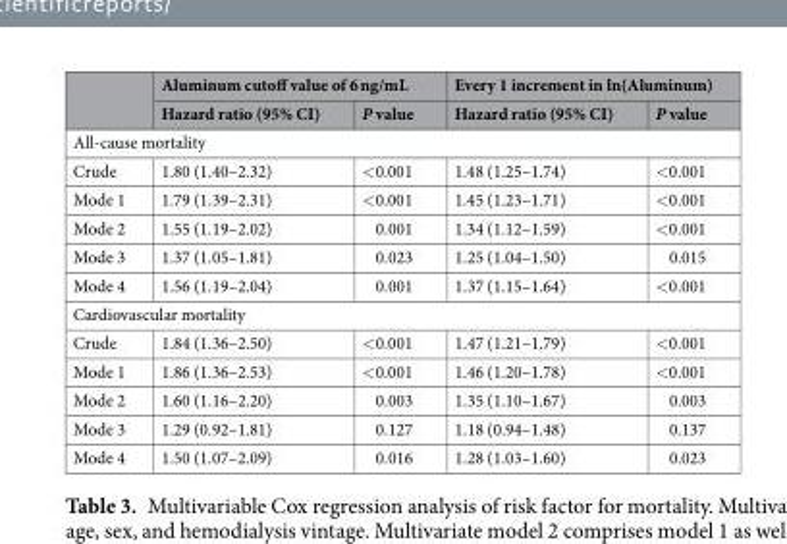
<table><thead><tr><td rowspan="2"></td><td colspan="2">Aluminum cutoff value of 6 ng/mL</td><td colspan="2">Every 1 increment in ln(Aluminum)</td></tr><tr><td>Hazard ratio (95% CI)</td><td>P value</td><td>Hazard ratio (95% CI)</td><td>P value</td></tr></thead><tbody><tr><td colspan="5">All-cause mortality</td></tr><tr><td>Crude</td><td>1.80 (1.40–2.32)</td><td>&lt;0.001</td><td>1.48 (1.25–1.74)</td><td>&lt;0.001</td></tr><tr><td>Mode 1</td><td>1.79 (1.39–2.31)</td><td>&lt;0.001</td><td>1.45 (1.23–1.71)</td><td>&lt;0.001</td></tr><tr><td>Mode 2</td><td>1.55 (1.19–2.02)</td><td>0.001</td><td>1.34 (1.12–1.59)</td><td>&lt;0.001</td></tr><tr><td>Mode 3</td><td>1.37 (1.05–1.81)</td><td>0.023</td><td>1.25 (1.04–1.50)</td><td>0.015</td></tr><tr><td>Mode 4</td><td>1.56 (1.19–2.04)</td><td>0.001</td><td>1.37 (1.15–1.64)</td><td>&lt;0.001</td></tr><tr><td colspan="5">Cardiovascular mortality</td></tr><tr><td>Crude</td><td>1.84 (1.36–2.50)</td><td>&lt;0.001</td><td>1.47 (1.21–1.79)</td><td>&lt;0.001</td></tr><tr><td>Mode 1</td><td>1.86 (1.36–2.53)</td><td>&lt;0.001</td><td>1.46 (1.20–1.78)</td><td>&lt;0.001</td></tr><tr><td>Mode 2</td><td>1.60 (1.16–2.20)</td><td>0.003</td><td>1.35 (1.10–1.67)</td><td>0.003</td></tr><tr><td>Mode 3</td><td>1.29 (0.92–1.81)</td><td>0.127</td><td>1.18 (0.94–1.48)</td><td>0.137</td></tr><tr><td>Mode 4</td><td>1.50 (1.07–2.09)</td><td>0.016</td><td>1.28 (1.03–1.60)</td><td>0.023</td></tr></tbody></table>